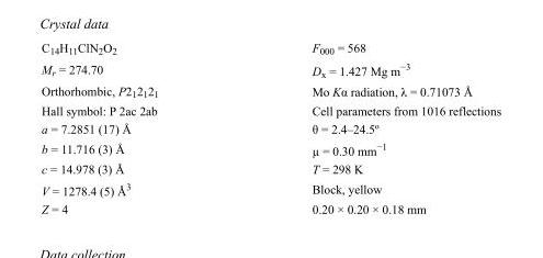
<table><tbody><tr><td>C<sub>14</sub>H<sub>11</sub>ClN<sub>2</sub>O<sub>2</sub></td><td>F000 = 568</td></tr><tr><td>M<sub>r</sub> = 274.70</td><td>D<sub>x</sub> = 1.427 Mg m<sup>−3</sup></td></tr><tr><td>Orthorhombic, P2<sub>1</sub>2<sub>1</sub>2<sub>1</sub></td><td>Mo Kα radiation, λ = 0.71073 Å</td></tr><tr><td>Hall symbol: P 2ac 2ab</td><td>Cell parameters from 1016 reflections</td></tr><tr><td>a = 7.2851 (17) Å</td><td>θ = 2.4–24.5º</td></tr><tr><td>b = 11.716 (3) Å</td><td>µ = 0.30 mm<sup>−1</sup></td></tr><tr><td>c = 14.978 (3) Å</td><td>T = 298 K</td></tr><tr><td>V = 1278.4 (5) Å<sup>3</sup></td><td>Block, yellow</td></tr><tr><td>Z = 4</td><td>0.20 × 0.20 × 0.18 mm</td></tr></tbody></table>